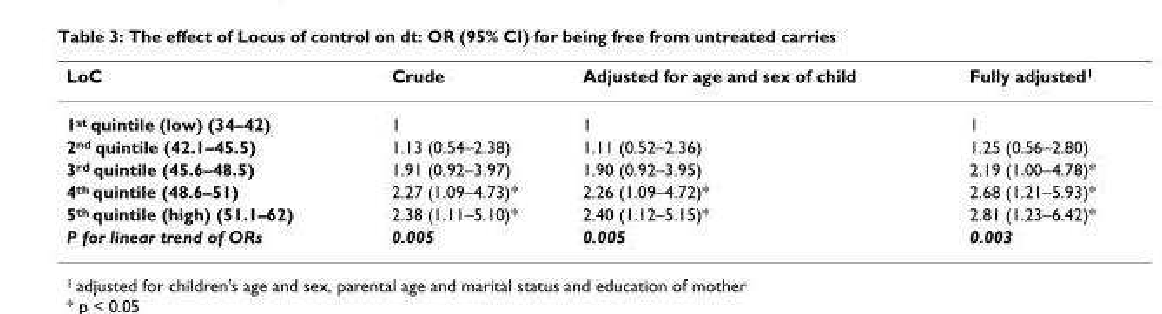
<table><thead><tr><td>LoC</td><td>Crude</td><td>Adjusted for age and sex of child</td><td>Fully adjusted<sup>1</sup></td></tr></thead><tbody><tr><td>1<sup>st</sup> quintile (low) (34–42)</td><td>1</td><td>1</td><td>1</td></tr><tr><td>2<sup>nd</sup> quintile (42.1–45.5)</td><td>1.13 (0.54–2.38)</td><td>1.11 (0.52–2.36)</td><td>1.25 (0.56–2.80)</td></tr><tr><td>3<sup>rd</sup> quintile (45.6–48.5)</td><td>1.91 (0.92–3.97)</td><td>1.90 (0.92–3.95)</td><td>2.19 (1.00–4.78)*</td></tr><tr><td>4<sup>th</sup> quintile (48.6–51)</td><td>2.27 (1.09–4.73)*</td><td>2.26 (1.09–4.72)*</td><td>2.68 (1.21–5.93)*</td></tr><tr><td>5<sup>th</sup> quintile (high) (51.1–62)</td><td>2.38 (1.11–5.10)*</td><td>2.40 (1.12–5.15)*</td><td>2.81 (1.23–6.42)*</td></tr><tr><td>P for linear trend of ORs</td><td>0.005</td><td>0.005</td><td>0.003</td></tr></tbody></table>